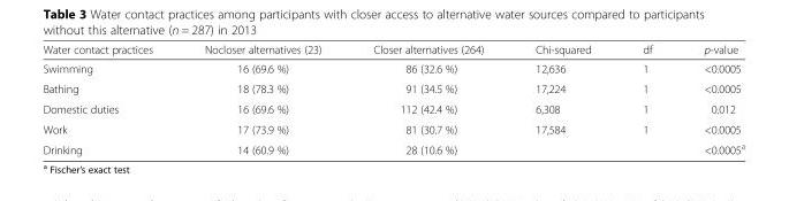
<table><thead><tr><td>Water contact practices</td><td>Nocloser alternatives (23)</td><td>Closer alternatives (264)</td><td>Chi-squared</td><td>df</td><td>p-value</td></tr></thead><tbody><tr><td>Swimming</td><td>16 (69.6 %)</td><td>86 (32.6 %)</td><td>12,636</td><td>1</td><td>&lt;0.0005</td></tr><tr><td>Bathing</td><td>18 (78.3 %)</td><td>91 (34.5 %)</td><td>17,224</td><td>1</td><td>&lt;0.0005</td></tr><tr><td>Domestic duties</td><td>16 (69.6 %)</td><td>112 (42.4 %)</td><td>6,308</td><td>1</td><td>0.012</td></tr><tr><td>Work</td><td>17 (73.9 %)</td><td>81 (30.7 %)</td><td>17,584</td><td>1</td><td>&lt;0.0005</td></tr><tr><td>Drinking</td><td>14 (60.9 %)</td><td>28 (10.6 %)</td><td></td><td></td><td>&lt;0.0005<sup>a</sup></td></tr></tbody></table>